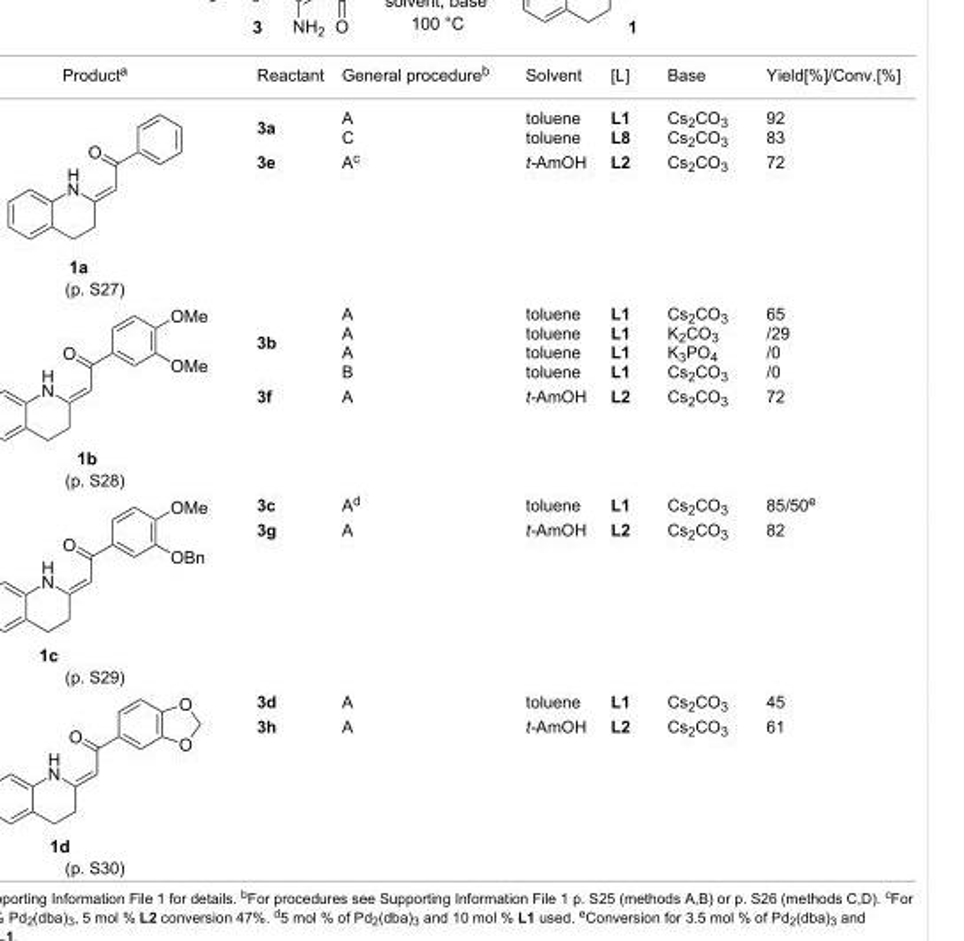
<table><tbody><tr><td>Product<sup>a</sup></td><td>Reactant</td><td>General procedure<sup>b</sup></td><td>Solvent</td><td>[L]</td><td>Base</td><td>Yield[%]/Conv.[%]</td></tr><tr><td rowspan="2">(p. S27)</td><td>3a</td><td>A C</td><td>toluene toluene</td><td>L1 L8</td><td>Cs<sub>2</sub>CO<sub>3</sub> Cs<sub>2</sub>CO<sub>3</sub></td><td>92 83</td></tr><tr><td>3e</td><td>A<sup>c</sup></td><td>t-AmOH</td><td>L2</td><td>Cs<sub>2</sub>CO<sub>3</sub></td><td>72</td></tr><tr><td rowspan="2">(p. S28)</td><td>3b</td><td>A A A B</td><td>toluene toluene toluene toluene</td><td>L1 L1 L1 L1</td><td>Cs<sub>2</sub>CO<sub>3</sub> K<sub>2</sub>CO<sub>3</sub> K<sub>3</sub>PO<sub>4</sub> Cs<sub>2</sub>CO<sub>3</sub></td><td>65 /29 /0 /0</td></tr><tr><td>3f</td><td>A</td><td>t-AmOH</td><td>L2</td><td>Cs<sub>2</sub>CO<sub>3</sub></td><td>72</td></tr><tr><td rowspan="2">(p. S29)</td><td>3c</td><td>A<sup>d</sup></td><td>toluene</td><td>L1</td><td>Cs<sub>2</sub>CO<sub>3</sub></td><td>85/50<sup>e</sup></td></tr><tr><td>3g</td><td>A</td><td>t-AmOH</td><td>L2</td><td>Cs<sub>2</sub>CO<sub>3</sub></td><td>82</td></tr><tr><td rowspan="2">(p. S30)</td><td>3d</td><td>A</td><td>toluene</td><td>L1</td><td>Cs<sub>2</sub>CO<sub>3</sub></td><td>45</td></tr><tr><td>3h</td><td>A</td><td>t-AmOH</td><td>L2</td><td>Cs<sub>2</sub>CO<sub>3</sub></td><td>61</td></tr></tbody></table>